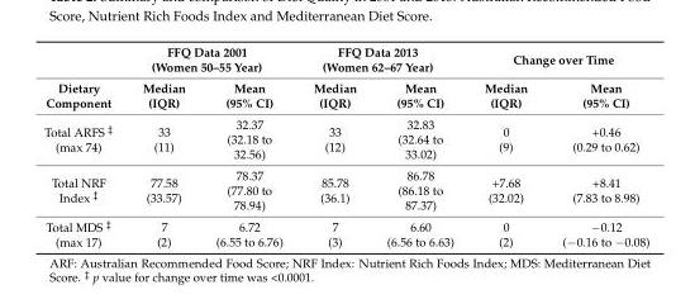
<table><thead><tr><td rowspan="2">Dietary Component</td><td colspan="2">FFQ Data 2001 (Women 50–55 Year)</td><td colspan="2">FFQ Data 2013 (Women 62–67 Year)</td><td colspan="2">Change over Time</td></tr><tr><td>Median (IQR)</td><td>Mean (95% CI)</td><td>Median (IQR)</td><td>Mean (95% CI)</td><td>Median (IQR)</td><td>Mean (95% CI)</td></tr></thead><tbody><tr><td>Total ARFS <sup>‡</sup> (max 74)</td><td>33 (11)</td><td>32.37 (32.18 to 32.56)</td><td>33 (12)</td><td>32.83 (32.64 to 33.02)</td><td>0 (9)</td><td>+0.46 (0.29 to 0.62)</td></tr><tr><td>Total NRF Index <sup>‡</sup></td><td>77.58 (33.57)</td><td>78.37 (77.80 to 78.94)</td><td>85.78 (36.1)</td><td>86.78 (86.18 to 87.37)</td><td>+7.68 (32.02)</td><td>+8.41 (7.83 to 8.98)</td></tr><tr><td>Total MDS <sup>‡</sup> (max 17)</td><td>7 (2)</td><td>6.72 (6.55 to 6.76)</td><td>7 (3)</td><td>6.60 (6.56 to 6.63)</td><td>0 (2)</td><td>−0.12 (−0.16 to −0.08)</td></tr></tbody></table>